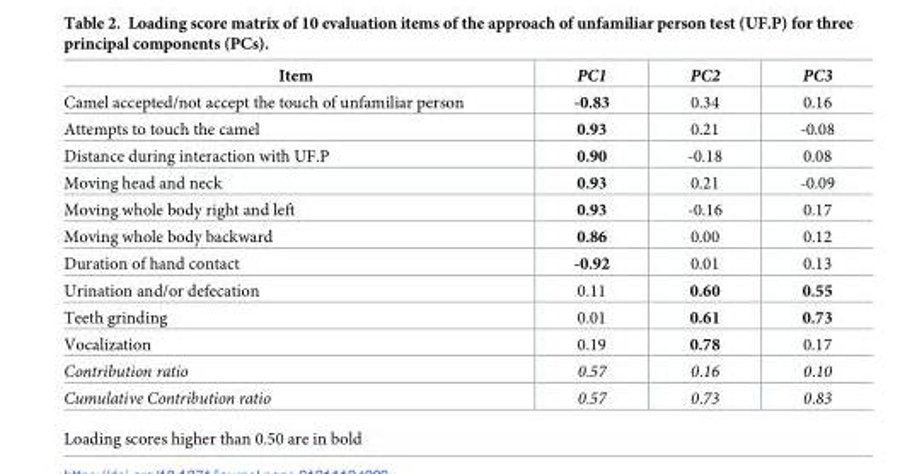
<table><thead><tr><td>Item</td><td>PC1</td><td>PC2</td><td>PC3</td></tr></thead><tbody><tr><td>Camel accepted/not accept the touch of unfamiliar person</td><td>-0.83</td><td>0.34</td><td>0.16</td></tr><tr><td>Attempts to touch the camel</td><td>0.93</td><td>0.21</td><td>-0.08</td></tr><tr><td>Distance during interaction with UF.P</td><td>0.90</td><td>-0.18</td><td>0.08</td></tr><tr><td>Moving head and neck</td><td>0.93</td><td>0.21</td><td>-0.09</td></tr><tr><td>Moving whole body right and left</td><td>0.93</td><td>-0.16</td><td>0.17</td></tr><tr><td>Moving whole body backward</td><td>0.86</td><td>0.00</td><td>0.12</td></tr><tr><td>Duration of hand contact</td><td>-0.92</td><td>0.01</td><td>0.13</td></tr><tr><td>Urination and/or defecation</td><td>0.11</td><td>0.60</td><td>0.55</td></tr><tr><td>Teeth grinding</td><td>0.01</td><td>0.61</td><td>0.73</td></tr><tr><td>Vocalization</td><td>0.19</td><td>0.78</td><td>0.17</td></tr><tr><td>Contribution ratio</td><td>0.57</td><td>0.16</td><td>0.10</td></tr><tr><td>Cumulative Contribution ratio</td><td>0.57</td><td>0.73</td><td>0.83</td></tr></tbody></table>